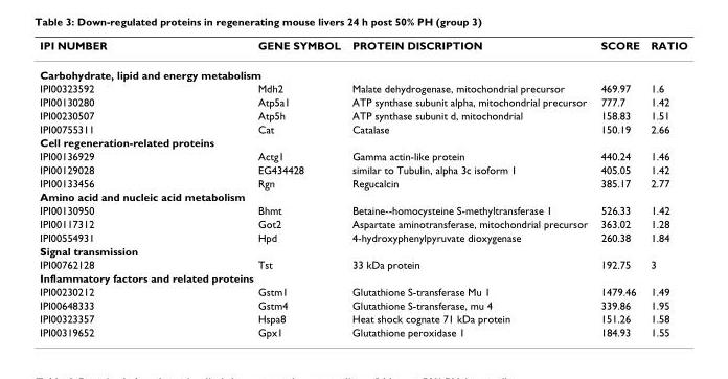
<table><thead><tr><td>IPI NUMBER</td><td>GENE SYMBOL</td><td>PROTEIN DISCRIPTION</td><td>SCORE</td><td>RATIO</td></tr></thead><tbody><tr><td colspan="5">Carbohydrate, lipid and energy metabolism</td></tr><tr><td>IPI00323592</td><td>Mdh2</td><td>Malate dehydrogenase, mitochondrial precursor</td><td>469.97</td><td>1.6</td></tr><tr><td>IPI00130280</td><td>Atp5a1</td><td>ATP synthase subunit alpha, mitochondrial precursor</td><td>777.7</td><td>1.42</td></tr><tr><td>IPI00230507</td><td>Atp5h</td><td>ATP synthase subunit d, mitochondrial</td><td>158.83</td><td>1.51</td></tr><tr><td>IPI00755311</td><td>Cat</td><td>Catalase</td><td>150.19</td><td>2.66</td></tr><tr><td colspan="5">Cell regeneration-related proteins</td></tr><tr><td>IPI00136929</td><td>Actg1</td><td>Gamma actin-like protein</td><td>440.24</td><td>1.46</td></tr><tr><td>IPI00129028</td><td>EG434428</td><td>similar to Tubulin, alpha 3c isoform 1</td><td>405.05</td><td>1.42</td></tr><tr><td>IPI00133456</td><td>Rgn</td><td>Regucalcin</td><td>385.17</td><td>2.77</td></tr><tr><td colspan="5">Amino acid and nucleic acid metabolism</td></tr><tr><td>IPI00130950</td><td>Bhmt</td><td>Betaine--homocysteine S-methyltransferase 1</td><td>526.33</td><td>1.42</td></tr><tr><td>IPI00117312</td><td>Got2</td><td>Aspartate aminotransferase, mitochondrial precursor</td><td>363.02</td><td>1.28</td></tr><tr><td>IPI00554931</td><td>Hpd</td><td>4-hydroxyphenylpyruvate dioxygenase</td><td>260.38</td><td>1.84</td></tr><tr><td colspan="5">Signal transmission</td></tr><tr><td>IPI00762128</td><td>Tst</td><td>33 kDa protein</td><td>192.75</td><td>3</td></tr><tr><td colspan="5">Inflammatory factors and related proteins</td></tr><tr><td>IPI00230212</td><td>Gstm1</td><td>Glutathione S-transferase Mu 1</td><td>1479.46</td><td>1.49</td></tr><tr><td>IPI00648333</td><td>Gstm4</td><td>Glutathione S-transferase, mu 4</td><td>339.86</td><td>1.95</td></tr><tr><td>IPI00323357</td><td>Hspa8</td><td>Heat shock cognate 71 kDa protein</td><td>151.26</td><td>1.58</td></tr><tr><td>IPI00319652</td><td>Gpx1</td><td>Glutathione peroxidase 1</td><td>184.93</td><td>1.55</td></tr></tbody></table>